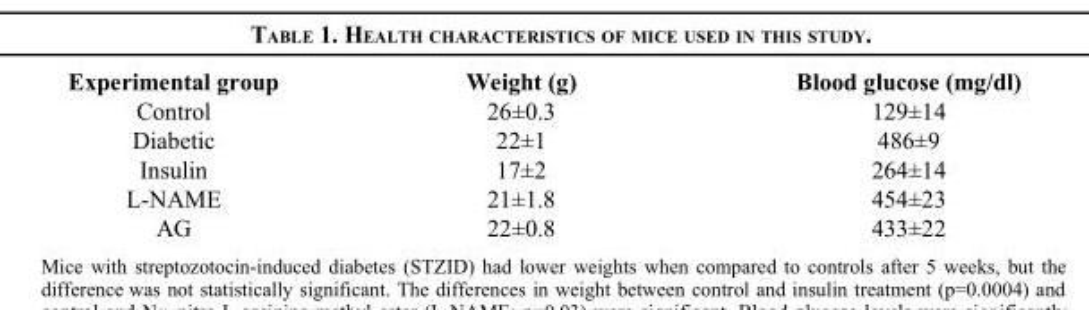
<table><thead><tr><td>Experimental group</td><td>Weight (g)</td><td>Blood glucose (mg/dl)</td></tr></thead><tbody><tr><td>Control</td><td>26±0.3</td><td>129±14</td></tr><tr><td>Diabetic</td><td>22±1</td><td>486±9</td></tr><tr><td>Insulin</td><td>17±2</td><td>264±14</td></tr><tr><td>L-NAME</td><td>21±1.8</td><td>454±23</td></tr><tr><td>AG</td><td>22±0.8</td><td>433±22</td></tr></tbody></table>